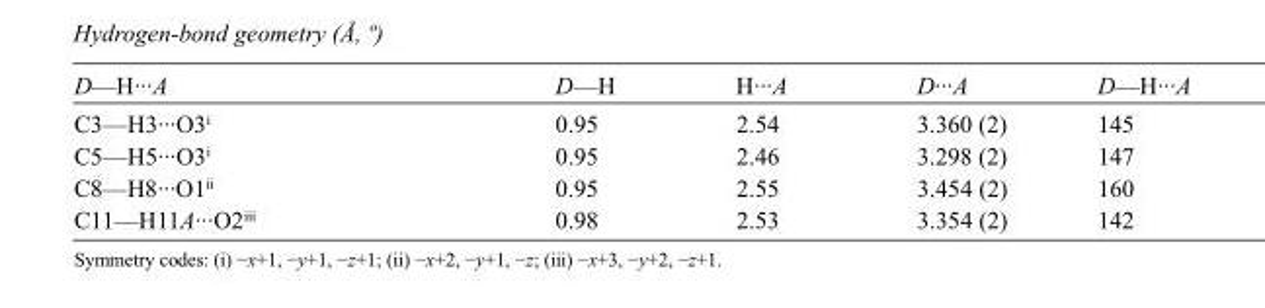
<table><tbody><tr><td>D—H···A</td><td>D—H</td><td>H···A</td><td>D···A</td><td>D—H···A</td></tr><tr><td>C3—H3···O3<sup>i</sup></td><td>0.95</td><td>2.54</td><td>3.360 (2)</td><td>145</td></tr><tr><td>C5—H5···O3<sup>i</sup></td><td>0.95</td><td>2.46</td><td>3.298 (2)</td><td>147</td></tr><tr><td>C8—H8···O1<sup>ii</sup></td><td>0.95</td><td>2.55</td><td>3.454 (2)</td><td>160</td></tr><tr><td>C11—H11A···O2<sup>iii</sup></td><td>0.98</td><td>2.53</td><td>3.354 (2)</td><td>142</td></tr></tbody></table>